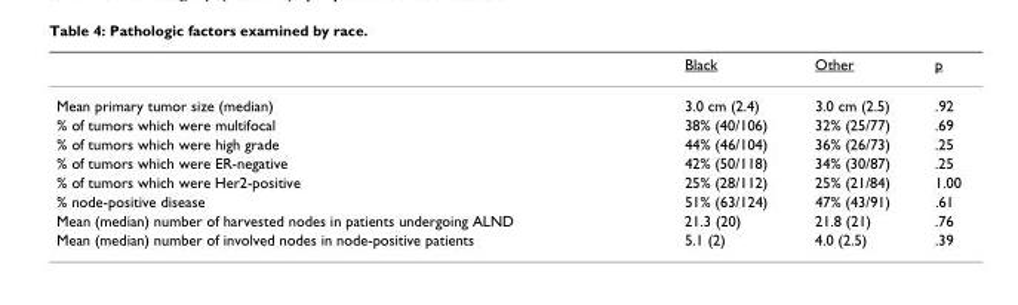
<table><thead><tr><td></td><td>Black</td><td>Other</td><td>p</td></tr></thead><tbody><tr><td>Mean primary tumor size (median)</td><td>3.0 cm (2.4)</td><td>3.0 cm (2.5)</td><td>.92</td></tr><tr><td>% of tumors which were multifocal</td><td>38% (40/106)</td><td>32% (25/77)</td><td>.69</td></tr><tr><td>% of tumors which were high grade</td><td>44% (46/104)</td><td>36% (26/73)</td><td>.25</td></tr><tr><td>% of tumors which were ER-negative</td><td>42% (50/118)</td><td>34% (30/87)</td><td>.25</td></tr><tr><td>% of tumors which were Her2-positive</td><td>25% (28/112)</td><td>25% (21/84)</td><td>1.00</td></tr><tr><td>% node-positive disease</td><td>51% (63/124)</td><td>47% (43/91)</td><td>.61</td></tr><tr><td>Mean (median) number of harvested nodes in patients undergoing ALND</td><td>21.3 (20)</td><td>21.8 (21)</td><td>.76</td></tr><tr><td>Mean (median) number of involved nodes in node-positive patients</td><td>5.1 (2)</td><td>4.0 (2.5)</td><td>.39</td></tr></tbody></table>